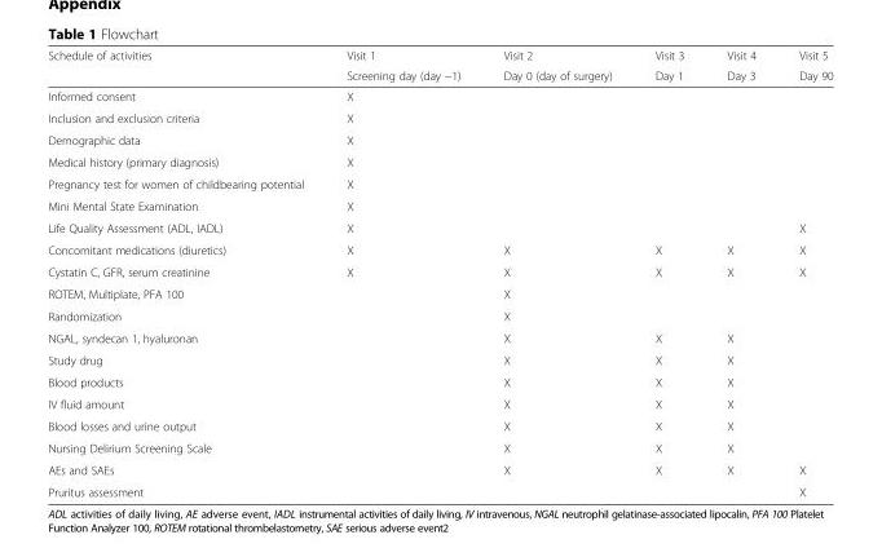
<table><thead><tr><td rowspan="2">Schedule of activities</td><td rowspan="2">Visit 1 Screening day (day −1)</td><td rowspan="2">Visit 2 Day 0 (day of surgery)</td><td rowspan="2">Visit 3 Day 1</td><td rowspan="2">Visit 4 Day 3</td><td rowspan="2">Visit 5 Day 90</td></tr><tr></tr></thead><tbody><tr><td>Informed consent</td><td>X</td><td></td><td></td><td></td><td></td></tr><tr><td>Inclusion and exclusion criteria</td><td>X</td><td></td><td></td><td></td><td></td></tr><tr><td>Demographic data</td><td>X</td><td></td><td></td><td></td><td></td></tr><tr><td>Medical history (primary diagnosis)</td><td>X</td><td></td><td></td><td></td><td></td></tr><tr><td>Pregnancy test for women of childbearing potential</td><td>X</td><td></td><td></td><td></td><td></td></tr><tr><td>Mini Mental State Examination</td><td>X</td><td></td><td></td><td></td><td></td></tr><tr><td>Life Quality Assessment (ADL, IADL)</td><td>X</td><td></td><td></td><td></td><td>X</td></tr><tr><td>Concomitant medications (diuretics)</td><td>X</td><td>X</td><td>X</td><td>X</td><td>X</td></tr><tr><td>Cystatin C, GFR, serum creatinine</td><td>X</td><td>X</td><td>X</td><td>X</td><td>X</td></tr><tr><td>ROTEM, Multiplate, PFA 100</td><td></td><td>X</td><td></td><td></td><td></td></tr><tr><td>Randomization</td><td></td><td>X</td><td></td><td></td><td></td></tr><tr><td>NGAL, syndecan 1, hyaluronan</td><td></td><td>X</td><td>X</td><td>X</td><td></td></tr><tr><td>Study drug</td><td></td><td>X</td><td>X</td><td>X</td><td></td></tr><tr><td>Blood products</td><td></td><td>X</td><td>X</td><td>X</td><td></td></tr><tr><td>IV fluid amount</td><td></td><td>X</td><td>X</td><td>X</td><td></td></tr><tr><td>Blood losses and urine output</td><td></td><td>X</td><td>X</td><td>X</td><td></td></tr><tr><td>Nursing Delirium Screening Scale</td><td></td><td>X</td><td>X</td><td>X</td><td></td></tr><tr><td>AEs and SAEs</td><td></td><td>X</td><td>X</td><td>X</td><td>X</td></tr><tr><td>Pruritus assessment</td><td></td><td></td><td></td><td></td><td>X</td></tr></tbody></table>